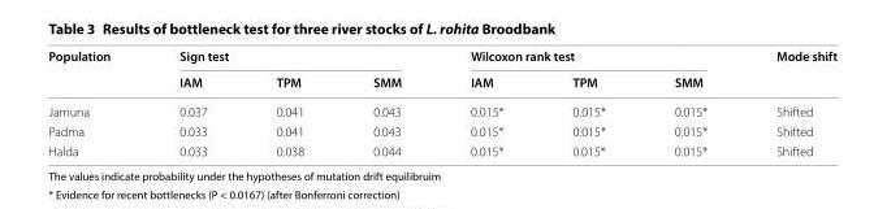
<table><thead><tr><td rowspan="2">Population</td><td colspan="3">Sign test</td><td colspan="3">Wilcoxon rank test</td><td rowspan="2">Mode shift</td></tr><tr><td>IAM</td><td>TPM</td><td>SMM</td><td>IAM</td><td>TPM</td><td>SMM</td></tr></thead><tbody><tr><td>Jamuna</td><td>0.037</td><td>0.041</td><td>0.043</td><td>0.015*</td><td>0.015*</td><td>0.015*</td><td>Shifted</td></tr><tr><td>Padma</td><td>0.033</td><td>0.041</td><td>0.043</td><td>0.015*</td><td>0.015*</td><td>0.015*</td><td>Shifted</td></tr><tr><td>Halda</td><td>0.033</td><td>0.038</td><td>0.044</td><td>0.015*</td><td>0.015*</td><td>0.015*</td><td>Shifted</td></tr></tbody></table>